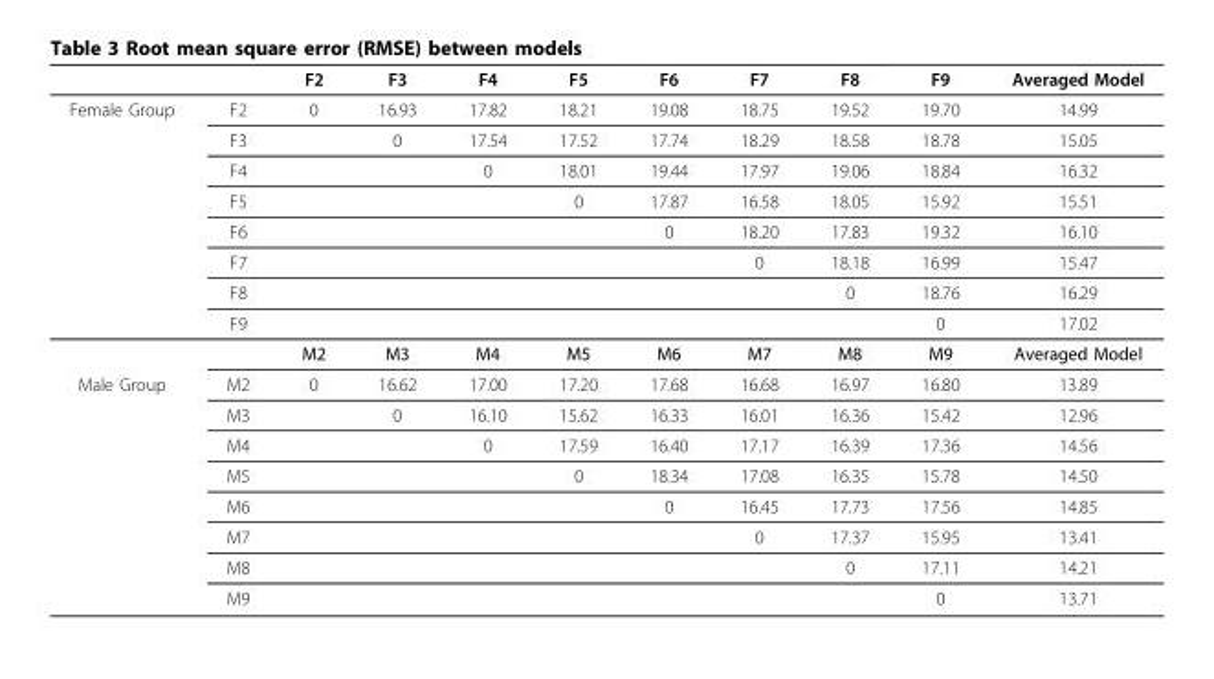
<table><thead><tr><td></td><td></td><td>F2</td><td>F3</td><td>F4</td><td>F5</td><td>F6</td><td>F7</td><td>F8</td><td>F9</td><td>Averaged Model</td></tr></thead><tbody><tr><td rowspan="9">Female Group</td><td>F2</td><td>0</td><td>16.93</td><td>17.82</td><td>18.21</td><td>19.08</td><td>18.75</td><td>19.52</td><td>19.70</td><td>14.99</td></tr><tr><td>F3</td><td></td><td>0</td><td>17.54</td><td>17.52</td><td>17.74</td><td>18.29</td><td>18.58</td><td>18.78</td><td>15.05</td></tr><tr><td>F4</td><td></td><td></td><td>0</td><td>18.01</td><td>19.44</td><td>17.97</td><td>19.06</td><td>18.84</td><td>16.32</td></tr><tr><td>F5</td><td></td><td></td><td></td><td>0</td><td>17.87</td><td>16.58</td><td>18.05</td><td>15.92</td><td>15.51</td></tr><tr><td>F6</td><td></td><td></td><td></td><td></td><td>0</td><td>18.20</td><td>17.83</td><td>19.32</td><td>16.10</td></tr><tr><td>F7</td><td></td><td></td><td></td><td></td><td></td><td>0</td><td>18.18</td><td>16.99</td><td>15.47</td></tr><tr><td>F8</td><td></td><td></td><td></td><td></td><td></td><td></td><td>0</td><td>18.76</td><td>16.29</td></tr><tr><td>F9</td><td></td><td></td><td></td><td></td><td></td><td></td><td></td><td>0</td><td>17.02</td></tr><tr><td></td><td>M2</td><td>M3</td><td>M4</td><td>M5</td><td>M6</td><td>M7</td><td>M8</td><td>M9</td><td>Averaged Model</td></tr><tr><td rowspan="8">Male Group</td><td>M2</td><td>0</td><td>16.62</td><td>17.00</td><td>17.20</td><td>17.68</td><td>16.68</td><td>16.97</td><td>16.80</td><td>13.89</td></tr><tr><td>M3</td><td></td><td>0</td><td>16.10</td><td>15.62</td><td>16.33</td><td>16.01</td><td>16.36</td><td>15.42</td><td>12.96</td></tr><tr><td>M4</td><td></td><td></td><td>0</td><td>17.59</td><td>16.40</td><td>17.17</td><td>16.39</td><td>17.36</td><td>14.56</td></tr><tr><td>M5</td><td></td><td></td><td></td><td>0</td><td>18.34</td><td>17.08</td><td>16.35</td><td>15.78</td><td>14.50</td></tr><tr><td>M6</td><td></td><td></td><td></td><td></td><td>0</td><td>16.45</td><td>17.73</td><td>17.56</td><td>14.85</td></tr><tr><td>M7</td><td></td><td></td><td></td><td></td><td></td><td>0</td><td>17.37</td><td>15.95</td><td>13.41</td></tr><tr><td>M8</td><td></td><td></td><td></td><td></td><td></td><td></td><td>0</td><td>17.11</td><td>14.21</td></tr><tr><td>M9</td><td></td><td></td><td></td><td></td><td></td><td></td><td></td><td>0</td><td>13.71</td></tr></tbody></table>